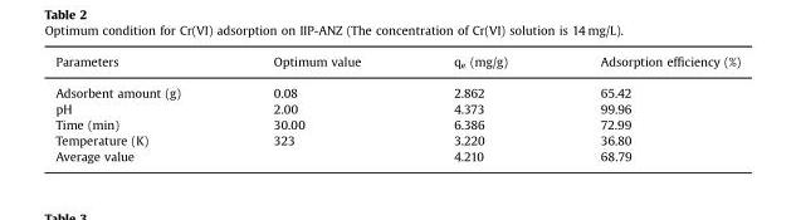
<table><thead><tr><td>Parameters</td><td>Optimum value</td><td>q<sub>e</sub> (mg/g)</td><td>Adsorption efficiency (%)</td></tr></thead><tbody><tr><td>Adsorbent amount (g)</td><td>0.08</td><td>2.862</td><td>65.42</td></tr><tr><td>pH</td><td>2.00</td><td>4.373</td><td>99.96</td></tr><tr><td>Time (min)</td><td>30.00</td><td>6.386</td><td>72.99</td></tr><tr><td>Temperature (K)</td><td>323</td><td>3.220</td><td>36.80</td></tr><tr><td>Average value</td><td></td><td>4.210</td><td>68.79</td></tr></tbody></table>